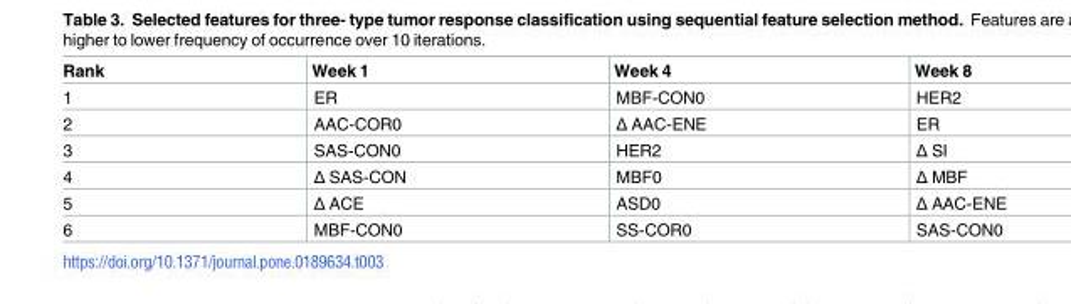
<table><thead><tr><td>Rank</td><td>Week 1</td><td>Week 4</td><td>Week 8</td></tr></thead><tbody><tr><td>1</td><td>ER</td><td>MBF-CON0</td><td>HER2</td></tr><tr><td>2</td><td>AAC-COR0</td><td>Δ AAC-ENE</td><td>ER</td></tr><tr><td>3</td><td>SAS-CON0</td><td>HER2</td><td>Δ SI</td></tr><tr><td>4</td><td>Δ SAS-CON</td><td>MBF0</td><td>Δ MBF</td></tr><tr><td>5</td><td>Δ ACE</td><td>ASD0</td><td>Δ AAC-ENE</td></tr><tr><td>6</td><td>MBF-CON0</td><td>SS-COR0</td><td>SAS-CON0</td></tr></tbody></table>